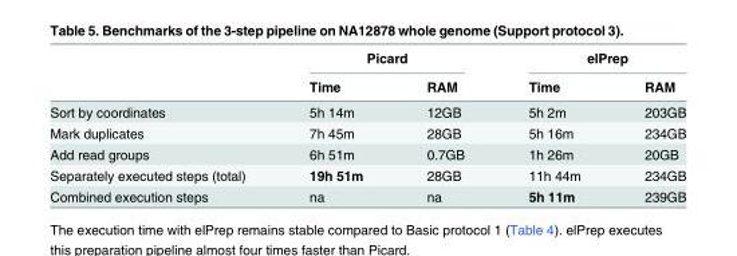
<table><thead><tr><td rowspan="2"></td><td colspan="2">Picard</td><td colspan="2">elPrep</td></tr><tr><td>Time</td><td>RAM</td><td>Time</td><td>RAM</td></tr></thead><tbody><tr><td>Sort by coordinates</td><td>5h 14m</td><td>12GB</td><td>5h 2m</td><td>203GB</td></tr><tr><td>Mark duplicates</td><td>7h 45m</td><td>28GB</td><td>5h 16m</td><td>234GB</td></tr><tr><td>Add read groups</td><td>6h 51m</td><td>0.7GB</td><td>1h 26m</td><td>20GB</td></tr><tr><td>Separately executed steps (total)</td><td>19h 51m</td><td>28GB</td><td>11h 44m</td><td>234GB</td></tr><tr><td>Combined execution steps</td><td>na</td><td>na</td><td>5h 11m</td><td>239GB</td></tr></tbody></table>